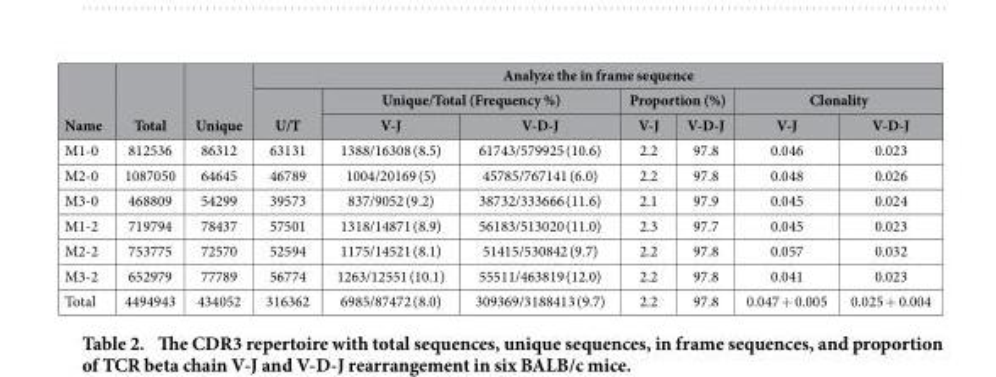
<table><thead><tr><td rowspan="3">Name</td><td rowspan="3">Total</td><td rowspan="3">Unique</td><td colspan="7">Analyze the in frame sequence</td></tr><tr><td rowspan="2">U/T</td><td colspan="2">Unique/Total (Frequency %)</td><td colspan="2">Proportion (%)</td><td colspan="2">Clonality</td></tr><tr><td>V-J</td><td>V-D-J</td><td>V-J</td><td>V-D-J</td><td>V-J</td><td>V-D-J</td></tr></thead><tbody><tr><td>M1-0</td><td>812536</td><td>86312</td><td>63131</td><td>1388/16308 (8.5)</td><td>61743/579925 (10.6)</td><td>2.2</td><td>97.8</td><td>0.046</td><td>0.023</td></tr><tr><td>M2-0</td><td>1087050</td><td>64645</td><td>46789</td><td>1004/20169 (5)</td><td>45785/767141 (6.0)</td><td>2.2</td><td>97.8</td><td>0.048</td><td>0.026</td></tr><tr><td>M3-0</td><td>468809</td><td>54299</td><td>39573</td><td>837/9052 (9.2)</td><td>38732/333666 (11.6)</td><td>2.1</td><td>97.9</td><td>0.045</td><td>0.024</td></tr><tr><td>M1-2</td><td>719794</td><td>78437</td><td>57501</td><td>1318/14871 (8.9)</td><td>56183/513020 (11.0)</td><td>2.3</td><td>97.7</td><td>0.045</td><td>0.023</td></tr><tr><td>M2-2</td><td>753775</td><td>72570</td><td>52594</td><td>1175/14521 (8.1)</td><td>51415/530842 (9.7)</td><td>2.2</td><td>97.8</td><td>0.057</td><td>0.032</td></tr><tr><td>M3-2</td><td>652979</td><td>77789</td><td>56774</td><td>1263/12551 (10.1)</td><td>55511/463819 (12.0)</td><td>2.2</td><td>97.8</td><td>0.041</td><td>0.023</td></tr><tr><td>Total</td><td>4494943</td><td>434052</td><td>316362</td><td>6985/87472 (8.0)</td><td>309369/3188413 (9.7)</td><td>2.2</td><td>97.8</td><td>0.047 + 0.005</td><td>0.025 + 0.004</td></tr></tbody></table>